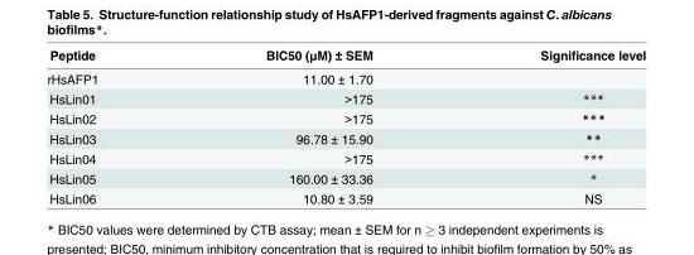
<table><thead><tr><td>Peptide</td><td>BIC50 (μM) ± SEM</td><td>Significance level</td></tr></thead><tbody><tr><td>rHsAFP1</td><td>11.00 ± 1.70</td><td></td></tr><tr><td>HsLin01</td><td>&gt;175</td><td>***</td></tr><tr><td>HsLin02</td><td>&gt;175</td><td>***</td></tr><tr><td>HsLin03</td><td>96.78 ± 15.90</td><td>**</td></tr><tr><td>HsLin04</td><td>&gt;175</td><td>***</td></tr><tr><td>HsLin05</td><td>160.00 ± 33.36</td><td>*</td></tr><tr><td>HsLin06</td><td>10.80 ± 3.59</td><td>NS</td></tr></tbody></table>